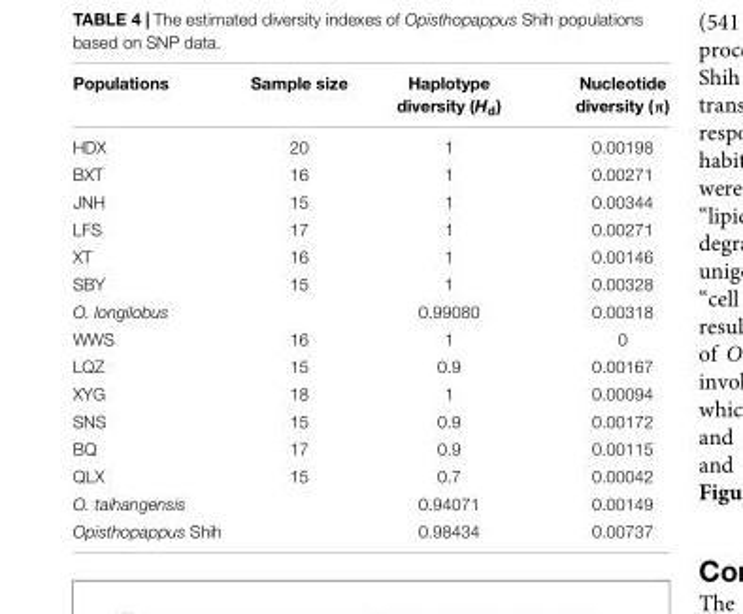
<table><thead><tr><td>Populations</td><td>Sample size</td><td>Haplotype diversity (H<sub>d</sub>)</td><td>Nucleotide diversity (π)</td></tr></thead><tbody><tr><td>HDX</td><td>20</td><td>1</td><td>0.00198</td></tr><tr><td>BXT</td><td>16</td><td>1</td><td>0.00271</td></tr><tr><td>JNH</td><td>15</td><td>1</td><td>0.00344</td></tr><tr><td>LFS</td><td>17</td><td>1</td><td>0.00271</td></tr><tr><td>XT</td><td>16</td><td>1</td><td>0.00146</td></tr><tr><td>SBY</td><td>15</td><td>1</td><td>0.00328</td></tr><tr><td>O. longilobus</td><td></td><td>0.99080</td><td>0.00318</td></tr><tr><td>WWS</td><td>16</td><td>1</td><td>0</td></tr><tr><td>LQZ</td><td>15</td><td>0.9</td><td>0.00167</td></tr><tr><td>XYG</td><td>18</td><td>1</td><td>0.00094</td></tr><tr><td>SNS</td><td>15</td><td>0.9</td><td>0.00172</td></tr><tr><td>BQ</td><td>17</td><td>0.9</td><td>0.00115</td></tr><tr><td>QLX</td><td>15</td><td>0.7</td><td>0.00042</td></tr><tr><td>O. taihangensis</td><td></td><td>0.94071</td><td>0.00149</td></tr><tr><td>Opisthopappus Shih</td><td></td><td>0.98434</td><td>0.00737</td></tr></tbody></table>